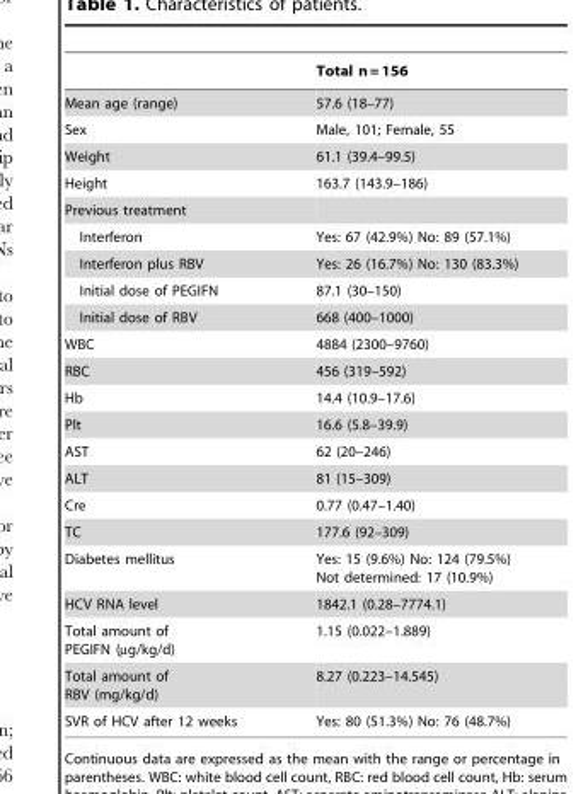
<table><thead><tr><td></td><td>Total n = 156</td></tr></thead><tbody><tr><td>Mean age (range)</td><td>57.6 (18–77)</td></tr><tr><td>Sex</td><td>Male, 101; Female, 55</td></tr><tr><td>Weight</td><td>61.1 (39.4–99.5)</td></tr><tr><td>Height</td><td>163.7 (143.9–186)</td></tr><tr><td colspan="2">Previous treatment</td></tr><tr><td>Interferon</td><td>Yes: 67 (42.9%) No: 89 (57.1%)</td></tr><tr><td>Interferon plus RBV</td><td>Yes: 26 (16.7%) No: 130 (83.3%)</td></tr><tr><td>Initial dose of PEGIFN</td><td>87.1 (30–150)</td></tr><tr><td>Initial dose of RBV</td><td>668 (400–1000)</td></tr><tr><td>WBC</td><td>4884 (2300–9760)</td></tr><tr><td>RBC</td><td>456 (319–592)</td></tr><tr><td>Hb</td><td>14.4 (10.9–17.6)</td></tr><tr><td>Plt</td><td>16.6 (5.8–39.9)</td></tr><tr><td>AST</td><td>62 (20–246)</td></tr><tr><td>ALT</td><td>81 (15–309)</td></tr><tr><td>Cre</td><td>0.77 (0.47–1.40)</td></tr><tr><td>TC</td><td>177.6 (92–309)</td></tr><tr><td>Diabetes mellitus</td><td>Yes: 15 (9.6%) No: 124 (79.5%) Not determined: 17 (10.9%)</td></tr><tr><td>HCV RNA level</td><td>1842.1 (0.28–7774.1)</td></tr><tr><td>Total amount of PEGIFN (µg/kg/d)</td><td>1.15 (0.022–1.889)</td></tr><tr><td>Total amount of RBV (mg/kg/d)</td><td>8.27 (0.223–14.545)</td></tr><tr><td>SVR of HCV after 12 weeks</td><td>Yes: 80 (51.3%) No: 76 (48.7%)</td></tr></tbody></table>